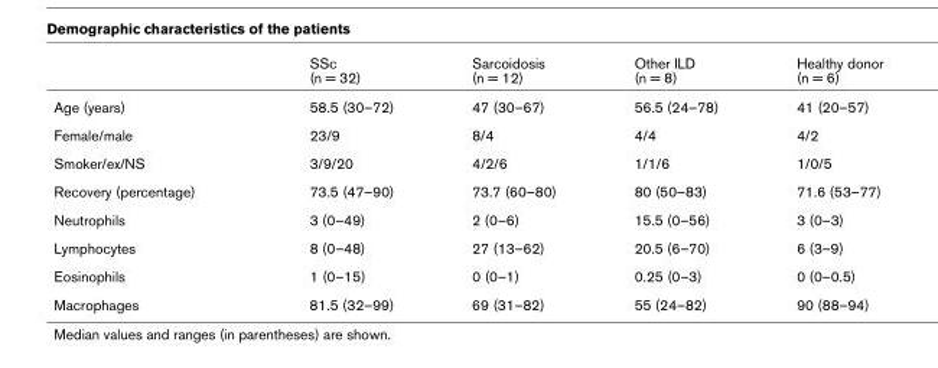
<table><thead><tr><td></td><td>SSc (n = 32)</td><td>Sarcoidosis (n = 12)</td><td>Other ILD (n = 8)</td><td>Healthy donor (n = 6)</td></tr></thead><tbody><tr><td>Age (years)</td><td>58.5 (30–72)</td><td>47 (30–67)</td><td>56.5 (24–78)</td><td>41 (20–57)</td></tr><tr><td>Female/male</td><td>23/9</td><td>8/4</td><td>4/4</td><td>4/2</td></tr><tr><td>Smoker/ex/NS</td><td>3/9/20</td><td>4/2/6</td><td>1/1/6</td><td>1/0/5</td></tr><tr><td>Recovery (percentage)</td><td>73.5 (47–90)</td><td>73.7 (60–80)</td><td>80 (50–83)</td><td>71.6 (53–77)</td></tr><tr><td>Neutrophils</td><td>3 (0–49)</td><td>2 (0–6)</td><td>15.5 (0–56)</td><td>3 (0–3)</td></tr><tr><td>Lymphocytes</td><td>8 (0–48)</td><td>27 (13–62)</td><td>20.5 (6–70)</td><td>6 (3–9)</td></tr><tr><td>Eosinophils</td><td>1 (0–15)</td><td>0 (0–1)</td><td>0.25 (0–3)</td><td>0 (0–0.5)</td></tr><tr><td>Macrophages</td><td>81.5 (32–99)</td><td>69 (31–82)</td><td>55 (24–82)</td><td>90 (88–94)</td></tr></tbody></table>